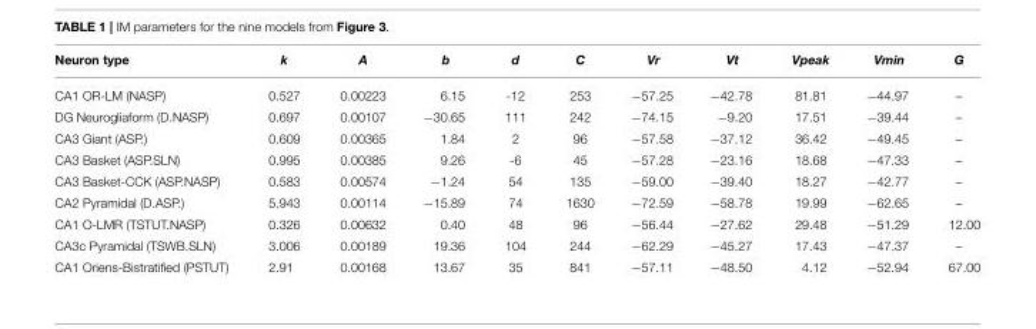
<table><thead><tr><td>Neuron type</td><td>k</td><td>A</td><td>b</td><td>d</td><td>C</td><td>Vr</td><td>Vt</td><td>Vpeak</td><td>Vmin</td><td>G</td></tr></thead><tbody><tr><td>CA1 OR-LM (NASP)</td><td>0.527</td><td>0.00223</td><td>6.15</td><td>-12</td><td>253</td><td>−57.25</td><td>−42.78</td><td>81.81</td><td>−44.97</td><td>–</td></tr><tr><td>DG Neurogliaform (D.NASP)</td><td>0.697</td><td>0.00107</td><td>−30.65</td><td>111</td><td>242</td><td>−74.15</td><td>−9.20</td><td>17.51</td><td>−39.44</td><td>–</td></tr><tr><td>CA3 Giant (ASP.)</td><td>0.609</td><td>0.00365</td><td>1.84</td><td>2</td><td>96</td><td>−57.58</td><td>−37.12</td><td>36.42</td><td>−49.45</td><td>–</td></tr><tr><td>CA3 Basket (ASP.SLN)</td><td>0.995</td><td>0.00385</td><td>9.26</td><td>-6</td><td>45</td><td>−57.28</td><td>−23.16</td><td>18.68</td><td>−47.33</td><td>–</td></tr><tr><td>CA3 Basket-CCK (ASP.NASP)</td><td>0.583</td><td>0.00574</td><td>−1.24</td><td>54</td><td>135</td><td>−59.00</td><td>−39.40</td><td>18.27</td><td>−42.77</td><td>–</td></tr><tr><td>CA2 Pyramidal (D.ASP.)</td><td>5.943</td><td>0.00114</td><td>−15.89</td><td>74</td><td>1630</td><td>−72.59</td><td>−58.78</td><td>19.99</td><td>−62.65</td><td>–</td></tr><tr><td>CA1 O-LMR (TSTUT.NASP)</td><td>0.326</td><td>0.00632</td><td>0.40</td><td>48</td><td>96</td><td>−56.44</td><td>−27.62</td><td>29.48</td><td>−51.29</td><td>12.00</td></tr><tr><td>CA3c Pyramidal (TSWB.SLN)</td><td>3.006</td><td>0.00189</td><td>19.36</td><td>104</td><td>244</td><td>−62.29</td><td>−45.27</td><td>17.43</td><td>−47.37</td><td>–</td></tr><tr><td>CA1 Oriens-Bistratified (PSTUT)</td><td>2.91</td><td>0.00168</td><td>13.67</td><td>35</td><td>841</td><td>−57.11</td><td>−48.50</td><td>4.12</td><td>−52.94</td><td>67.00</td></tr></tbody></table>